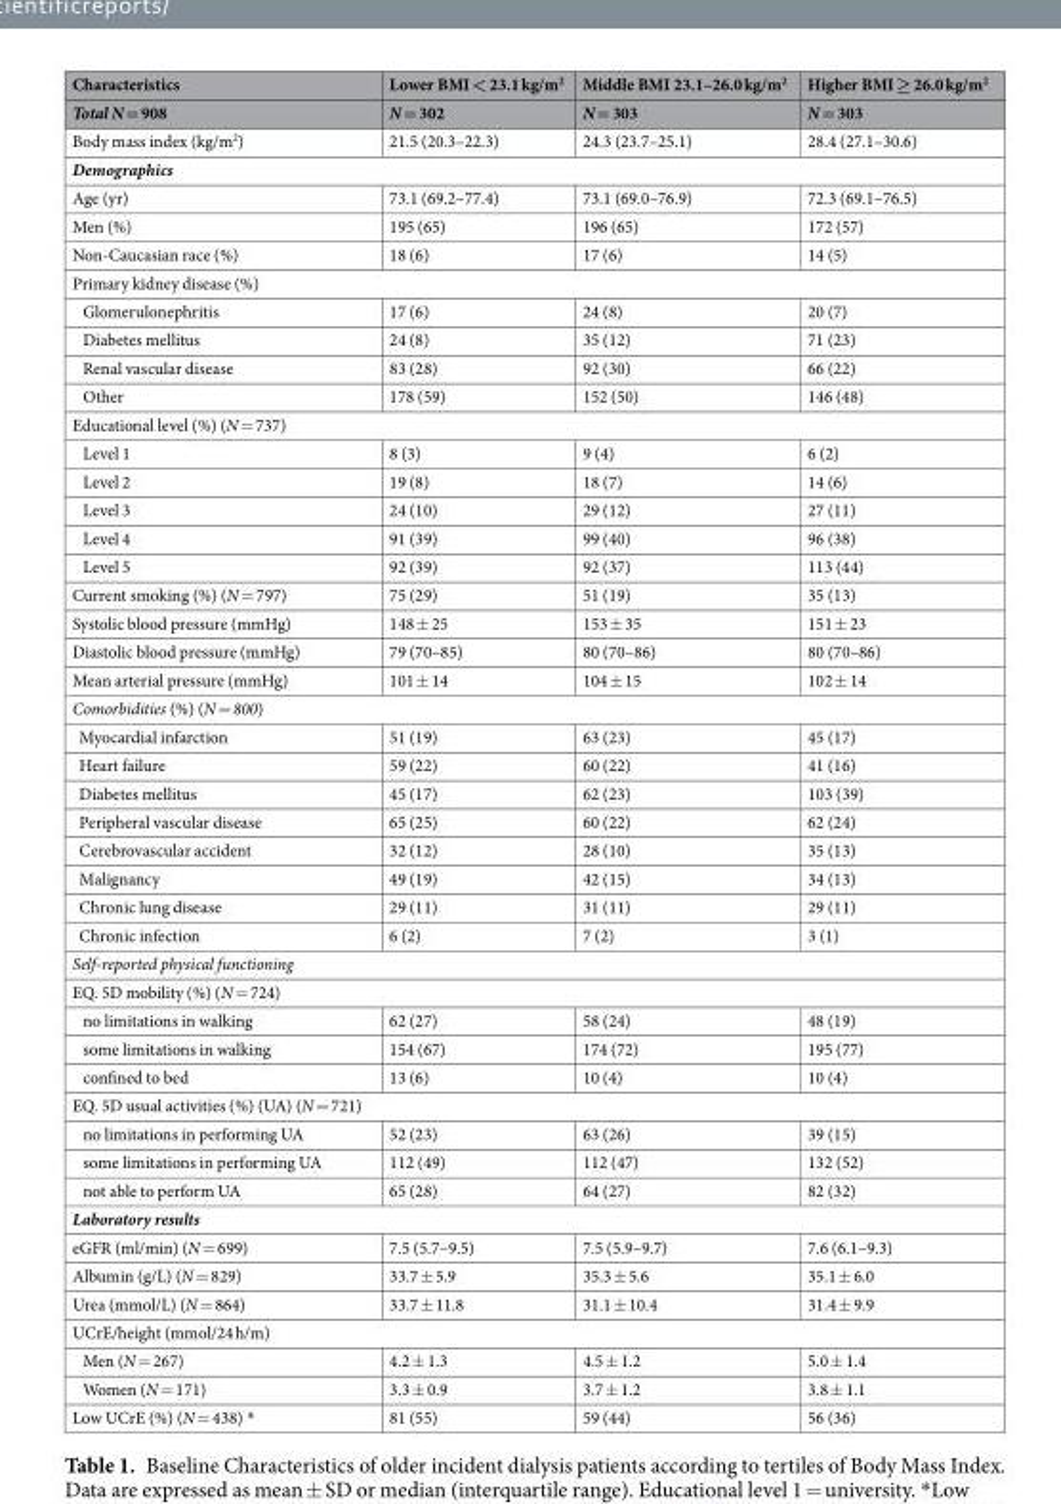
<table><thead><tr><td rowspan="2">Characteristics Total N = 908</td><td rowspan="2">Lower BMI &lt; 23.1 kg/m<sup>2</sup> N = 302</td><td rowspan="2">Middle BMI 23.1–26.0 kg/m<sup>2</sup> N = 303</td><td rowspan="2">Higher BMI ≥ 26.0 kg/m<sup>2</sup> N = 303</td></tr><tr></tr></thead><tbody><tr><td>Body mass index (kg/m<sup>2</sup>)</td><td>21.5 (20.3–22.3)</td><td>24.3 (23.7–25.1)</td><td>28.4 (27.1–30.6)</td></tr><tr><td colspan="4">Demographics</td></tr><tr><td>Age (yr)</td><td>73.1 (69.2–77.4)</td><td>73.1 (69.0–76.9)</td><td>72.3 (69.1–76.5)</td></tr><tr><td>Men (%)</td><td>195 (65)</td><td>196 (65)</td><td>172 (57)</td></tr><tr><td>Non-Caucasian race (%)</td><td>18 (6)</td><td>17 (6)</td><td>14 (5)</td></tr><tr><td colspan="4">Primary kidney disease (%)</td></tr><tr><td>Glomerulonephritis</td><td>17 (6)</td><td>24 (8)</td><td>20 (7)</td></tr><tr><td>Diabetes mellitus</td><td>24 (8)</td><td>35 (12)</td><td>71 (23)</td></tr><tr><td>Renal vascular disease</td><td>83 (28)</td><td>92 (30)</td><td>66 (22)</td></tr><tr><td>Other</td><td>178 (59)</td><td>152 (50)</td><td>146 (48)</td></tr><tr><td colspan="4">Educational level (%) (N = 737)</td></tr><tr><td>Level 1</td><td>8 (3)</td><td>9 (4)</td><td>6 (2)</td></tr><tr><td>Level 2</td><td>19 (8)</td><td>18 (7)</td><td>14 (6)</td></tr><tr><td>Level 3</td><td>24 (10)</td><td>29 (12)</td><td>27 (11)</td></tr><tr><td>Level 4</td><td>91 (39)</td><td>99 (40)</td><td>96 (38)</td></tr><tr><td>Level 5</td><td>92 (39)</td><td>92 (37)</td><td>113 (44)</td></tr><tr><td>Current smoking (%) (N = 797)</td><td>75 (29)</td><td>51 (19)</td><td>35 (13)</td></tr><tr><td>Systolic blood pressure (mmHg)</td><td>148 ± 25</td><td>153 ± 35</td><td>151 ± 23</td></tr><tr><td>Diastolic blood pressure (mmHg)</td><td>79 (70–85)</td><td>80 (70–86)</td><td>80 (70–86)</td></tr><tr><td>Mean arterial pressure (mmHg)</td><td>101 ± 14</td><td>104 ± 15</td><td>102 ± 14</td></tr><tr><td colspan="4">Comorbidities (%) (N = 800)</td></tr><tr><td>Myocardial infarction</td><td>51 (19)</td><td>63 (23)</td><td>45 (17)</td></tr><tr><td>Heart failure</td><td>59 (22)</td><td>60 (22)</td><td>41 (16)</td></tr><tr><td>Diabetes mellitus</td><td>45 (17)</td><td>62 (23)</td><td>103 (39)</td></tr><tr><td>Peripheral vascular disease</td><td>65 (25)</td><td>60 (22)</td><td>62 (24)</td></tr><tr><td>Cerebrovascular accident</td><td>32 (12)</td><td>28 (10)</td><td>35 (13)</td></tr><tr><td>Malignancy</td><td>49 (19)</td><td>42 (15)</td><td>34 (13)</td></tr><tr><td>Chronic lung disease</td><td>29 (11)</td><td>31 (11)</td><td>29 (11)</td></tr><tr><td>Chronic infection</td><td>6 (2)</td><td>7 (2)</td><td>3 (1)</td></tr><tr><td colspan="4">Self-reported physical functioning</td></tr><tr><td colspan="4">EQ. 5D mobility (%) (N = 724)</td></tr><tr><td>no limitations in walking</td><td>62 (27)</td><td>58 (24)</td><td>48 (19)</td></tr><tr><td>some limitations in walking</td><td>154 (67)</td><td>174 (72)</td><td>195 (77)</td></tr><tr><td>confined to bed</td><td>13 (6)</td><td>10 (4)</td><td>10 (4)</td></tr><tr><td colspan="4">EQ. 5D usual activities (%) (UA) (N = 721)</td></tr><tr><td>no limitations in performing UA</td><td>52 (23)</td><td>63 (26)</td><td>39 (15)</td></tr><tr><td>some limitations in performing UA</td><td>112 (49)</td><td>112 (47)</td><td>132 (52)</td></tr><tr><td>not able to perform UA</td><td>65 (28)</td><td>64 (27)</td><td>82 (32)</td></tr><tr><td colspan="4">Laboratory results</td></tr><tr><td>eGFR (ml/min) (N = 699)</td><td>7.5 (5.7–9.5)</td><td>7.5 (5.9–9.7)</td><td>7.6 (6.1–9.3)</td></tr><tr><td>Albumin (g/L) (N = 829)</td><td>33.7 ± 5.9</td><td>35.3 ± 5.6</td><td>35.1 ± 6.0</td></tr><tr><td>Urea (mmol/L) (N = 864)</td><td>33.7 ± 11.8</td><td>31.1 ± 10.4</td><td>31.4 ± 9.9</td></tr><tr><td colspan="4">UCrE/height (mmol/24 h/m)</td></tr><tr><td>Men (N = 267)</td><td>4.2 ± 1.3</td><td>4.5 ± 1.2</td><td>5.0 ± 1.4</td></tr><tr><td>Women (N = 171)</td><td>3.3 ± 0.9</td><td>3.7 ± 1.2</td><td>3.8 ± 1.1</td></tr><tr><td>Low UCrE (%) (N = 438) *</td><td>81 (55)</td><td>59 (44)</td><td>56 (36)</td></tr></tbody></table>